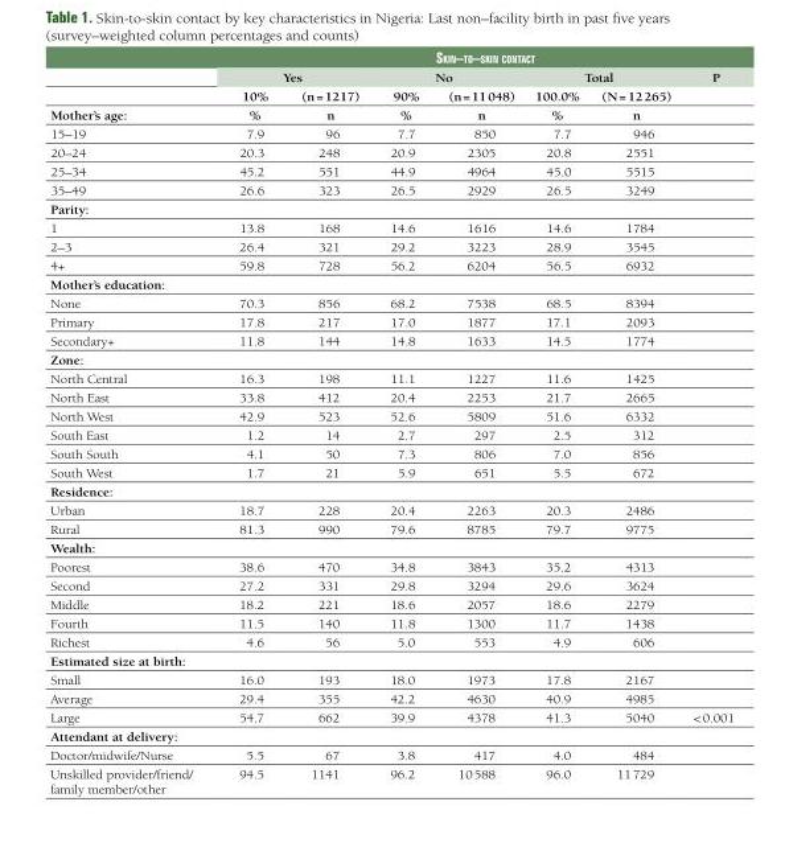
<table><thead><tr><td rowspan="3"></td><td colspan="7">Skin–to–Skin contact</td></tr><tr><td colspan="2">Yes</td><td colspan="2">No</td><td colspan="2">Total</td><td rowspan="2">P</td></tr><tr><td>10%</td><td>(n = 1217)</td><td>90%</td><td>(n = 11 048)</td><td>100.0%</td><td>(N = 12 265)</td></tr></thead><tbody><tr><td>Mother’s age:</td><td>%</td><td>n</td><td>%</td><td>n</td><td>%</td><td>n</td><td></td></tr><tr><td>15–19</td><td>7.9</td><td>96</td><td>7.7</td><td>850</td><td>7.7</td><td>946</td><td></td></tr><tr><td>20–24</td><td>20.3</td><td>248</td><td>20.9</td><td>2305</td><td>20.8</td><td>2551</td><td></td></tr><tr><td>25–34</td><td>45.2</td><td>551</td><td>44.9</td><td>4964</td><td>45.0</td><td>5515</td><td></td></tr><tr><td>35–49</td><td>26.6</td><td>323</td><td>26.5</td><td>2929</td><td>26.5</td><td>3249</td><td></td></tr><tr><td colspan="8">Parity:</td></tr><tr><td>1</td><td>13.8</td><td>168</td><td>14.6</td><td>1616</td><td>14.6</td><td>1784</td><td></td></tr><tr><td>2–3</td><td>26.4</td><td>321</td><td>29.2</td><td>3223</td><td>28.9</td><td>3545</td><td></td></tr><tr><td>4+</td><td>59.8</td><td>728</td><td>56.2</td><td>6204</td><td>56.5</td><td>6932</td><td></td></tr><tr><td colspan="8">Mother’s education:</td></tr><tr><td>None</td><td>70.3</td><td>856</td><td>68.2</td><td>7538</td><td>68.5</td><td>8394</td><td></td></tr><tr><td>Primary</td><td>17.8</td><td>217</td><td>17.0</td><td>1877</td><td>17.1</td><td>2093</td><td></td></tr><tr><td>Secondary+</td><td>11.8</td><td>144</td><td>14.8</td><td>1633</td><td>14.5</td><td>1774</td><td></td></tr><tr><td colspan="8">Zone:</td></tr><tr><td>North Central</td><td>16.3</td><td>198</td><td>11.1</td><td>1227</td><td>11.6</td><td>1425</td><td></td></tr><tr><td>North East</td><td>33.8</td><td>412</td><td>20.4</td><td>2253</td><td>21.7</td><td>2665</td><td></td></tr><tr><td>North West</td><td>42.9</td><td>523</td><td>52.6</td><td>5809</td><td>51.6</td><td>6332</td><td></td></tr><tr><td>South East</td><td>1.2</td><td>14</td><td>2.7</td><td>297</td><td>2.5</td><td>312</td><td></td></tr><tr><td>South South</td><td>4.1</td><td>50</td><td>7.3</td><td>806</td><td>7.0</td><td>856</td><td></td></tr><tr><td>South West</td><td>1.7</td><td>21</td><td>5.9</td><td>651</td><td>5.5</td><td>672</td><td></td></tr><tr><td colspan="8">Residence:</td></tr><tr><td>Urban</td><td>18.7</td><td>228</td><td>20.4</td><td>2263</td><td>20.3</td><td>2486</td><td></td></tr><tr><td>Rural</td><td>81.3</td><td>990</td><td>79.6</td><td>8785</td><td>79.7</td><td>9775</td><td></td></tr><tr><td colspan="8">Wealth:</td></tr><tr><td>Poorest</td><td>38.6</td><td>470</td><td>34.8</td><td>3843</td><td>35.2</td><td>4313</td><td></td></tr><tr><td>Second</td><td>27.2</td><td>331</td><td>29.8</td><td>3294</td><td>29.6</td><td>3624</td><td></td></tr><tr><td>Middle</td><td>18.2</td><td>221</td><td>18.6</td><td>2057</td><td>18.6</td><td>2279</td><td></td></tr><tr><td>Fourth</td><td>11.5</td><td>140</td><td>11.8</td><td>1300</td><td>11.7</td><td>1438</td><td></td></tr><tr><td>Richest</td><td>4.6</td><td>56</td><td>5.0</td><td>553</td><td>4.9</td><td>606</td><td></td></tr><tr><td colspan="8">Estimated size at birth:</td></tr><tr><td>Small</td><td>16.0</td><td>193</td><td>18.0</td><td>1973</td><td>17.8</td><td>2167</td><td></td></tr><tr><td>Average</td><td>29.4</td><td>355</td><td>42.2</td><td>4630</td><td>40.9</td><td>4985</td><td></td></tr><tr><td>Large</td><td>54.7</td><td>662</td><td>39.9</td><td>4378</td><td>41.3</td><td>5040</td><td>&lt; 0.001</td></tr><tr><td colspan="8">Attendant at delivery:</td></tr><tr><td>Doctor/midwife/Nurse</td><td>5.5</td><td>67</td><td>3.8</td><td>417</td><td>4.0</td><td>484</td><td></td></tr><tr><td>Unskilled provider/friend/ family member/other</td><td>94.5</td><td>1141</td><td>96.2</td><td>10 588</td><td>96.0</td><td>11 729</td><td></td></tr></tbody></table>